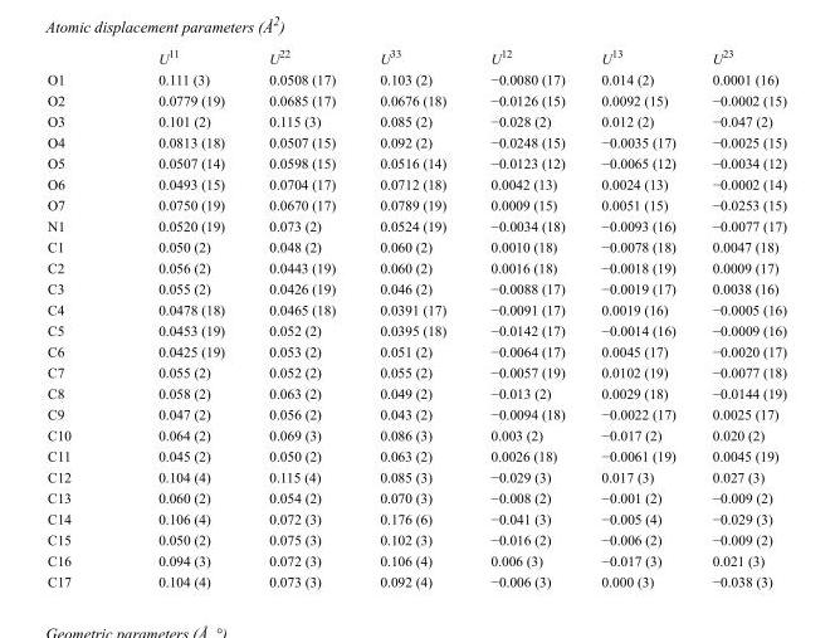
<table><thead><tr><td></td><td>U<sup>11</sup></td><td>U<sup>22</sup></td><td>U<sup>33</sup></td><td>U<sup>12</sup></td><td>U<sup>13</sup></td><td>U<sup>23</sup></td></tr></thead><tbody><tr><td>O1</td><td>0.111 (3)</td><td>0.0508 (17)</td><td>0.103 (2)</td><td>−0.0080 (17)</td><td>0.014 (2)</td><td>0.0001 (16)</td></tr><tr><td>O2</td><td>0.0779 (19)</td><td>0.0685 (17)</td><td>0.0676 (18)</td><td>−0.0126 (15)</td><td>0.0092 (15)</td><td>−0.0002 (15)</td></tr><tr><td>O3</td><td>0.101 (2)</td><td>0.115 (3)</td><td>0.085 (2)</td><td>−0.028 (2)</td><td>0.012 (2)</td><td>−0.047 (2)</td></tr><tr><td>O4</td><td>0.0813 (18)</td><td>0.0507 (15)</td><td>0.092 (2)</td><td>−0.0248 (15)</td><td>−0.0035 (17)</td><td>−0.0025 (15)</td></tr><tr><td>O5</td><td>0.0507 (14)</td><td>0.0598 (15)</td><td>0.0516 (14)</td><td>−0.0123 (12)</td><td>−0.0065 (12)</td><td>−0.0034 (12)</td></tr><tr><td>O6</td><td>0.0493 (15)</td><td>0.0704 (17)</td><td>0.0712 (18)</td><td>0.0042 (13)</td><td>0.0024 (13)</td><td>−0.0002 (14)</td></tr><tr><td>O7</td><td>0.0750 (19)</td><td>0.0670 (17)</td><td>0.0789 (19)</td><td>0.0009 (15)</td><td>0.0051 (15)</td><td>−0.0253 (15)</td></tr><tr><td>N1</td><td>0.0520 (19)</td><td>0.073 (2)</td><td>0.0524 (19)</td><td>−0.0034 (18)</td><td>−0.0093 (16)</td><td>−0.0077 (17)</td></tr><tr><td>C1</td><td>0.050 (2)</td><td>0.048 (2)</td><td>0.060 (2)</td><td>0.0010 (18)</td><td>−0.0078 (18)</td><td>0.0047 (18)</td></tr><tr><td>C2</td><td>0.056 (2)</td><td>0.0443 (19)</td><td>0.060 (2)</td><td>0.0016 (18)</td><td>−0.0018 (19)</td><td>0.0009 (17)</td></tr><tr><td>C3</td><td>0.055 (2)</td><td>0.0426 (19)</td><td>0.046 (2)</td><td>−0.0088 (17)</td><td>−0.0019 (17)</td><td>0.0038 (16)</td></tr><tr><td>C4</td><td>0.0478 (18)</td><td>0.0465 (18)</td><td>0.0391 (17)</td><td>−0.0091 (17)</td><td>0.0019 (16)</td><td>−0.0005 (16)</td></tr><tr><td>C5</td><td>0.0453 (19)</td><td>0.052 (2)</td><td>0.0395 (18)</td><td>−0.0142 (17)</td><td>−0.0014 (16)</td><td>−0.0009 (16)</td></tr><tr><td>C6</td><td>0.0425 (19)</td><td>0.053 (2)</td><td>0.051 (2)</td><td>−0.0064 (17)</td><td>0.0045 (17)</td><td>−0.0020 (17)</td></tr><tr><td>C7</td><td>0.055 (2)</td><td>0.052 (2)</td><td>0.055 (2)</td><td>−0.0057 (19)</td><td>0.0102 (19)</td><td>−0.0077 (18)</td></tr><tr><td>C8</td><td>0.058 (2)</td><td>0.063 (2)</td><td>0.049 (2)</td><td>−0.013 (2)</td><td>0.0029 (18)</td><td>−0.0144 (19)</td></tr><tr><td>C9</td><td>0.047 (2)</td><td>0.056 (2)</td><td>0.043 (2)</td><td>−0.0094 (18)</td><td>−0.0022 (17)</td><td>0.0025 (17)</td></tr><tr><td>C10</td><td>0.064 (2)</td><td>0.069 (3)</td><td>0.086 (3)</td><td>0.003 (2)</td><td>−0.017 (2)</td><td>0.020 (2)</td></tr><tr><td>C11</td><td>0.045 (2)</td><td>0.050 (2)</td><td>0.063 (2)</td><td>0.0026 (18)</td><td>−0.0061 (19)</td><td>0.0045 (19)</td></tr><tr><td>C12</td><td>0.104 (4)</td><td>0.115 (4)</td><td>0.085 (3)</td><td>−0.029 (3)</td><td>0.017 (3)</td><td>0.027 (3)</td></tr><tr><td>C13</td><td>0.060 (2)</td><td>0.054 (2)</td><td>0.070 (3)</td><td>−0.008 (2)</td><td>−0.001 (2)</td><td>−0.009 (2)</td></tr><tr><td>C14</td><td>0.106 (4)</td><td>0.072 (3)</td><td>0.176 (6)</td><td>−0.041 (3)</td><td>−0.005 (4)</td><td>−0.029 (3)</td></tr><tr><td>C15</td><td>0.050 (2)</td><td>0.075 (3)</td><td>0.102 (3)</td><td>−0.016 (2)</td><td>−0.006 (2)</td><td>−0.009 (2)</td></tr><tr><td>C16</td><td>0.094 (3)</td><td>0.072 (3)</td><td>0.106 (4)</td><td>0.006 (3)</td><td>−0.017 (3)</td><td>0.021 (3)</td></tr><tr><td>C17</td><td>0.104 (4)</td><td>0.073 (3)</td><td>0.092 (4)</td><td>−0.006 (3)</td><td>0.000 (3)</td><td>−0.038 (3)</td></tr></tbody></table>